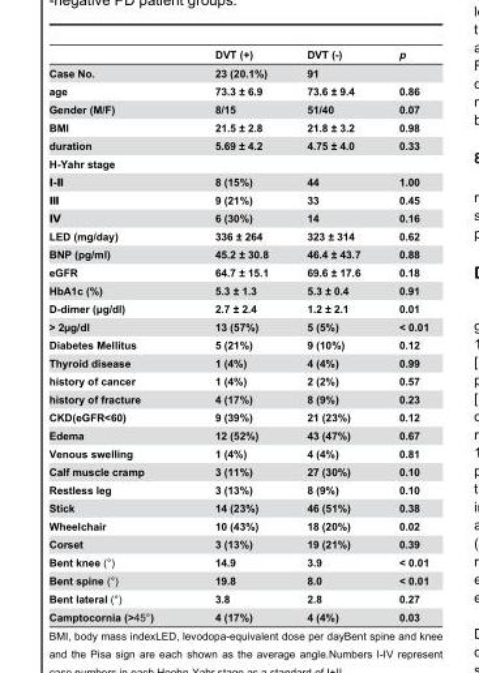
<table><thead><tr><td></td><td>DVT (+)</td><td>DVT (-)</td><td>p</td></tr></thead><tbody><tr><td>Case No.</td><td>23 (20.1%)</td><td>91</td><td></td></tr><tr><td>age</td><td>73.3 ± 6.9</td><td>73.6 ± 9.4</td><td>0.86</td></tr><tr><td>Gender (M/F)</td><td>8/15</td><td>51/40</td><td>0.07</td></tr><tr><td>BMI</td><td>21.5 ± 2.8</td><td>21.8 ± 3.2</td><td>0.98</td></tr><tr><td>duration</td><td>5.69 ± 4.2</td><td>4.75 ± 4.0</td><td>0.33</td></tr><tr><td colspan="4">H-Yahr stage</td></tr><tr><td>Ⅰ-Ⅱ</td><td>8 (15%)</td><td>44</td><td>1.00</td></tr><tr><td>Ⅲ</td><td>9 (21%)</td><td>33</td><td>0.45</td></tr><tr><td>Ⅳ</td><td>6 (30%)</td><td>14</td><td>0.16</td></tr><tr><td>LED (mg/day)</td><td>336 ± 264</td><td>323 ± 314</td><td>0.62</td></tr><tr><td>BNP (pg/ml)</td><td>45.2 ± 30.8</td><td>46.4 ± 43.7</td><td>0.88</td></tr><tr><td>eGFR</td><td>64.7 ± 15.1</td><td>69.6 ± 17.6</td><td>0.18</td></tr><tr><td>HbA1c (%)</td><td>5.3 ± 1.3</td><td>5.3 ± 0.4</td><td>0.91</td></tr><tr><td>D-dimer (μg/dl)</td><td>2.7 ± 2.4</td><td>1.2 ± 2.1</td><td>0.01</td></tr><tr><td>&gt; 2µg/dl</td><td>13 (57%)</td><td>5 (5%)</td><td>&lt; 0.01</td></tr><tr><td>Diabetes Mellitus</td><td>5 (21%)</td><td>9 (10%)</td><td>0.12</td></tr><tr><td>Thyroid disease</td><td>1 (4%)</td><td>4 (4%)</td><td>0.99</td></tr><tr><td>history of cancer</td><td>1 (4%)</td><td>2 (2%)</td><td>0.57</td></tr><tr><td>history of fracture</td><td>4 (17%)</td><td>8 (9%)</td><td>0.23</td></tr><tr><td>CKD(eGFR&lt;60)</td><td>9 (39%)</td><td>21 (23%)</td><td>0.12</td></tr><tr><td>Edema</td><td>12 (52%)</td><td>43 (47%)</td><td>0.67</td></tr><tr><td>Venous swelling</td><td>1 (4%)</td><td>4 (4%)</td><td>0.81</td></tr><tr><td>Calf muscle cramp</td><td>3 (11%)</td><td>27 (30%)</td><td>0.10</td></tr><tr><td>Restless leg</td><td>3 (13%)</td><td>8 (9%)</td><td>0.10</td></tr><tr><td>Stick</td><td>14 (23%)</td><td>46 (51%)</td><td>0.38</td></tr><tr><td>Wheelchair</td><td>10 (43%)</td><td>18 (20%)</td><td>0.02</td></tr><tr><td>Corset</td><td>3 (13%)</td><td>19 (21%)</td><td>0.39</td></tr><tr><td>Bent knee (°)</td><td>14.9</td><td>3.9</td><td>&lt; 0.01</td></tr><tr><td>Bent spine (°)</td><td>19.8</td><td>8.0</td><td>&lt; 0.01</td></tr><tr><td>Bent lateral (°)</td><td>3.8</td><td>2.8</td><td>0.27</td></tr><tr><td>Camptocornia (&gt;45°)</td><td>4 (17%)</td><td>4 (4%)</td><td>0.03</td></tr></tbody></table>